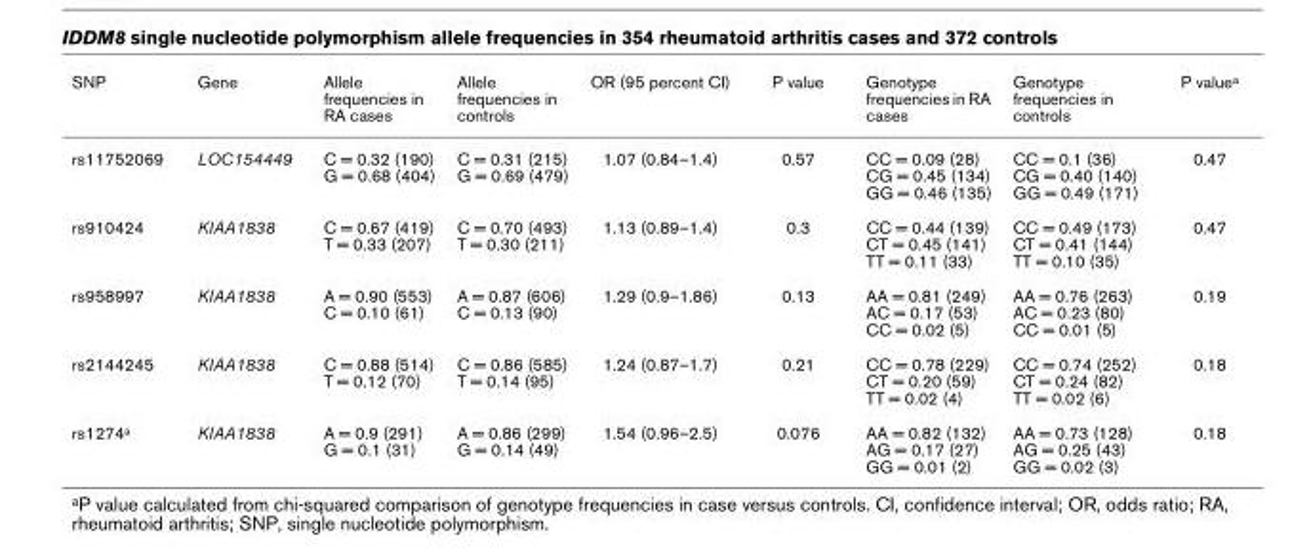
<table><thead><tr><td>SNP</td><td>Gene</td><td>Allele frequencies in RA cases</td><td>Allele frequencies in controls</td><td>OR (95 percent CI)</td><td>P value</td><td>Genotype frequencies in RA cases</td><td>Genotype frequencies in controls</td><td>P valuea</td></tr></thead><tbody><tr><td>rs11752069</td><td>LOC154449</td><td>C = 0.32 (190) G = 0.68 (404)</td><td>C = 0.31 (215) G = 0.69 (479)</td><td>1.07 (0.84–1.4)</td><td>0.57</td><td>CC = 0.09 (28) CG = 0.45 (134) GG = 0.46 (135)</td><td>CC = 0.1 (36) CG = 0.40 (140) GG = 0.49 (171)</td><td>0.47</td></tr><tr><td>rs910424</td><td>KIAA1838</td><td>C = 0.67 (419) T = 0.33 (207)</td><td>C = 0.70 (493) T = 0.30 (211)</td><td>1.13 (0.89–1.4)</td><td>0.3</td><td>CC = 0.44 (139) CT = 0.45 (141) TT = 0.11 (33)</td><td>CC = 0.49 (173) CT = 0.41 (144) TT = 0.10 (35)</td><td>0.47</td></tr><tr><td>rs958997</td><td>KIAA1838</td><td>A = 0.90 (553) C = 0.10 (61)</td><td>A = 0.87 (606) C = 0.13 (90)</td><td>1.29 (0.9–1.86)</td><td>0.13</td><td>AA = 0.81 (249) AC = 0.17 (53) CC = 0.02 (5)</td><td>AA = 0.76 (263) AC = 0.23 (80) CC = 0.01 (5)</td><td>0.19</td></tr><tr><td>rs2144245</td><td>KIAA1838</td><td>C = 0.88 (514) T = 0.12 (70)</td><td>C = 0.86 (585) T = 0.14 (95)</td><td>1.24 (0.87–1.7)</td><td>0.21</td><td>CC = 0.78 (229) CT = 0.20 (59) TT = 0.02 (4)</td><td>CC = 0.74 (252) CT = 0.24 (82) TT = 0.02 (6)</td><td>0.18</td></tr><tr><td>rs1274a</td><td>KIAA1838</td><td>A = 0.9 (291) G = 0.1 (31)</td><td>A = 0.86 (299) G = 0.14 (49)</td><td>1.54 (0.96–2.5)</td><td>0.076</td><td>AA = 0.82 (132) AG = 0.17 (27) GG = 0.01 (2)</td><td>AA = 0.73 (128) AG = 0.25 (43) GG = 0.02 (3)</td><td>0.18</td></tr></tbody></table>